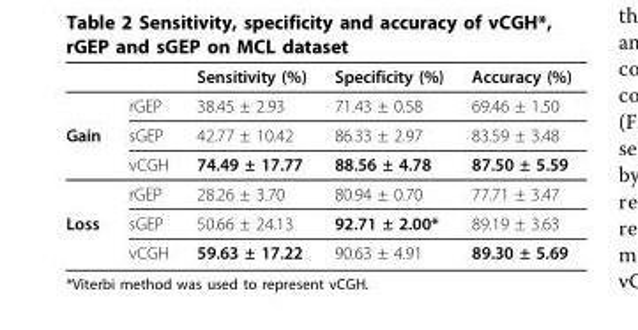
<table><thead><tr><td></td><td></td><td>Sensitivity (%)</td><td>Specificity (%)</td><td>Accuracy (%)</td></tr></thead><tbody><tr><td></td><td>rGEP</td><td>38.45 ± 2.93</td><td>71.43 ± 0.58</td><td>69.46 ± 1.50</td></tr><tr><td rowspan="3">Gain</td><td>sGEP</td><td>42.77 ± 10.42</td><td>86.33 ± 2.97</td><td>83.59 ± 3.48</td></tr><tr><td>vCGH</td><td>74.49 ± 17.77</td><td>88.56 ± 4.78</td><td>87.50 ± 5.59</td></tr><tr><td>rGEP</td><td>28.26 ± 3.70</td><td>80.94 ± 0.70</td><td>77.71 ± 3.47</td></tr><tr><td rowspan="2">Loss</td><td>sGEP</td><td>50.66 ± 24.13</td><td>92.71 ± 2.00*</td><td>89.19 ± 3.63</td></tr><tr><td>vCGH</td><td>59.63 ± 17.22</td><td>90.63 ± 4.91</td><td>89.30 ± 5.69</td></tr></tbody></table>